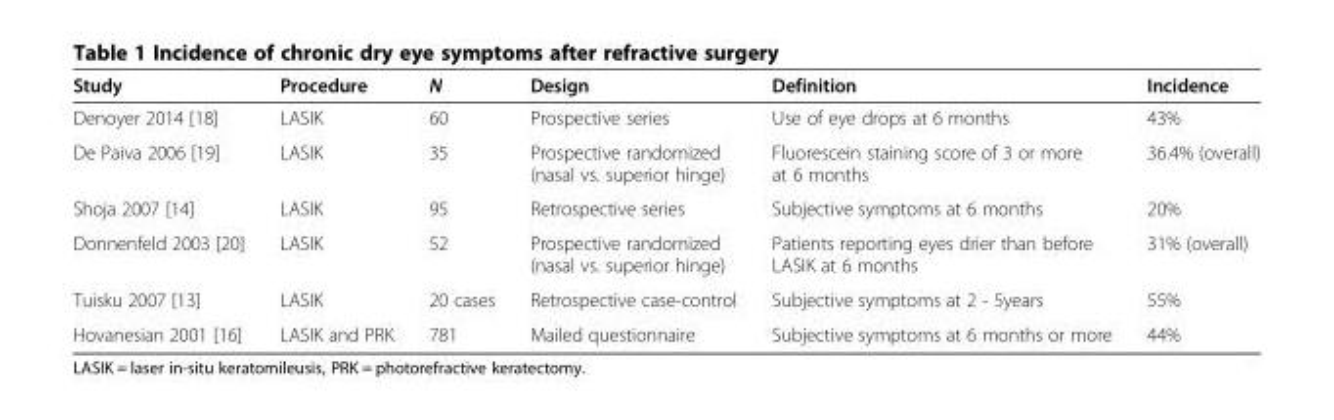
<table><thead><tr><td>Study</td><td>Procedure</td><td>N</td><td>Design</td><td>Definition</td><td>Incidence</td></tr></thead><tbody><tr><td>Denoyer 2014 [18]</td><td>LASIK</td><td>60</td><td>Prospective series</td><td>Use of eye drops at 6 months</td><td>43%</td></tr><tr><td>De Paiva 2006 [19]</td><td>LASIK</td><td>35</td><td>Prospective randomized (nasal vs. superior hinge)</td><td>Fluorescein staining score of 3 or more at 6 months</td><td>36.4% (overall)</td></tr><tr><td>Shoja 2007 [14]</td><td>LASIK</td><td>95</td><td>Retrospective series</td><td>Subjective symptoms at 6 months</td><td>20%</td></tr><tr><td>Donnenfeld 2003 [20]</td><td>LASIK</td><td>52</td><td>Prospective randomized (nasal vs. superior hinge)</td><td>Patients reporting eyes drier than before LASIK at 6 months</td><td>31% (overall)</td></tr><tr><td>Tuisku 2007 [13]</td><td>LASIK</td><td>20 cases</td><td>Retrospective case-control</td><td>Subjective symptoms at 2 - 5years</td><td>55%</td></tr><tr><td>Hovanesian 2001 [16]</td><td>LASIK and PRK</td><td>781</td><td>Mailed questionnaire</td><td>Subjective symptoms at 6 months or more</td><td>44%</td></tr></tbody></table>